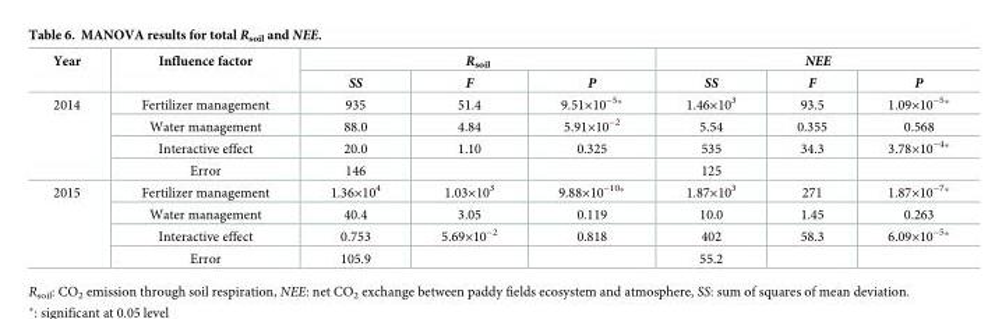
<table><thead><tr><td rowspan="2">Year</td><td rowspan="2">Influence factor</td><td colspan="3">R<sub>soil</sub></td><td colspan="3">NEE</td></tr><tr><td>SS</td><td>F</td><td>P</td><td>SS</td><td>F</td><td>P</td></tr></thead><tbody><tr><td rowspan="4">2014</td><td>Fertilizer management</td><td>935</td><td>51.4</td><td>9.51×10<sup>−5</sup>*</td><td>1.46×10<sup>3</sup></td><td>93.5</td><td>1.09×10<sup>−5</sup>*</td></tr><tr><td>Water management</td><td>88.0</td><td>4.84</td><td>5.91×10<sup>−2</sup></td><td>5.54</td><td>0.355</td><td>0.568</td></tr><tr><td>Interactive effect</td><td>20.0</td><td>1.10</td><td>0.325</td><td>535</td><td>34.3</td><td>3.78×10<sup>−4</sup>*</td></tr><tr><td>Error</td><td>146</td><td></td><td></td><td>125</td><td></td><td></td></tr><tr><td rowspan="4">2015</td><td>Fertilizer management</td><td>1.36×10<sup>4</sup></td><td>1.03×10<sup>3</sup></td><td>9.88×10<sup>−10</sup>*</td><td>1.87×10<sup>3</sup></td><td>271</td><td>1.87×10<sup>−7</sup>*</td></tr><tr><td>Water management</td><td>40.4</td><td>3.05</td><td>0.119</td><td>10.0</td><td>1.45</td><td>0.263</td></tr><tr><td>Interactive effect</td><td>0.753</td><td>5.69×10<sup>−2</sup></td><td>0.818</td><td>402</td><td>58.3</td><td>6.09×10<sup>−5</sup>*</td></tr><tr><td>Error</td><td>105.9</td><td></td><td></td><td>55.2</td><td></td><td></td></tr></tbody></table>